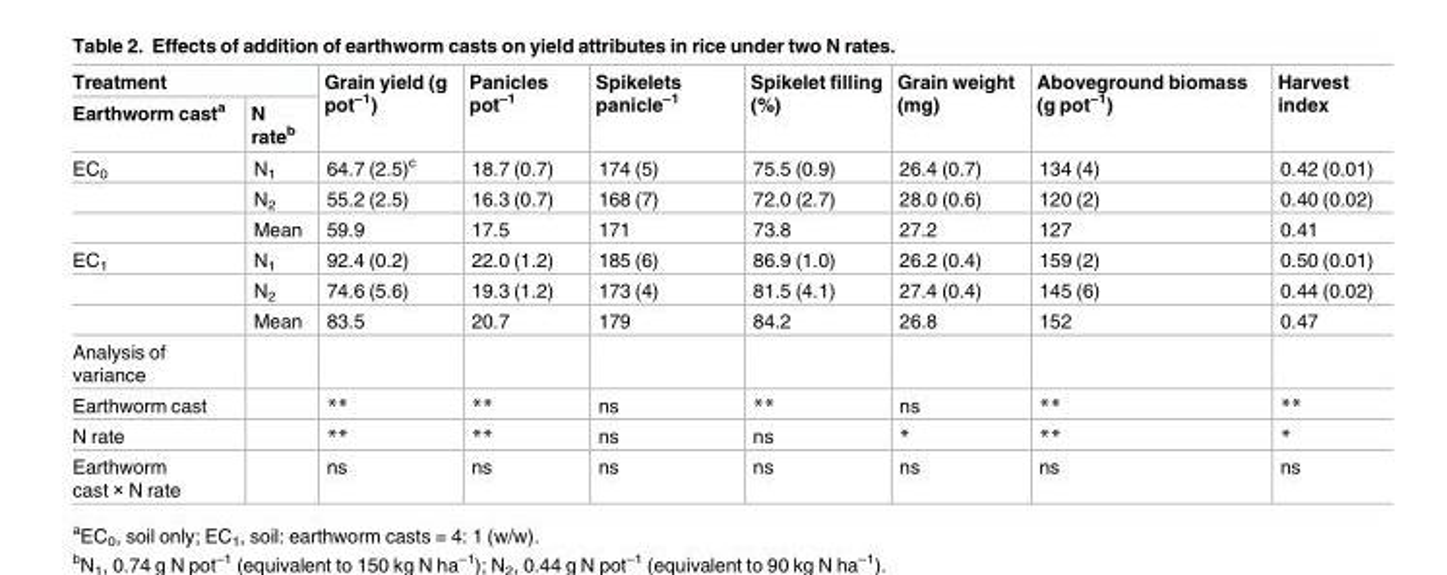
<table><thead><tr><td colspan="2">Treatment</td><td rowspan="2">Grain yield (g pot<sup>–1</sup>)</td><td rowspan="2">Panicles pot<sup>–1</sup></td><td rowspan="2">Spikelets panicle<sup>–1</sup></td><td rowspan="2">Spikelet filling (%)</td><td rowspan="2">Grain weight (mg)</td><td rowspan="2">Aboveground biomass (g pot<sup>–1</sup>)</td><td rowspan="2">Harvest index</td></tr><tr><td>Earthworm cast<sup>a</sup></td><td>N rate<sup>b</sup></td></tr></thead><tbody><tr><td rowspan="3">EC<sub>0</sub></td><td>N<sub>1</sub></td><td>64.7 (2.5)<sup>c</sup></td><td>18.7 (0.7)</td><td>174 (5)</td><td>75.5 (0.9)</td><td>26.4 (0.7)</td><td>134 (4)</td><td>0.42 (0.01)</td></tr><tr><td>N<sub>2</sub></td><td>55.2 (2.5)</td><td>16.3 (0.7)</td><td>168 (7)</td><td>72.0 (2.7)</td><td>28.0 (0.6)</td><td>120 (2)</td><td>0.40 (0.02)</td></tr><tr><td>Mean</td><td>59.9</td><td>17.5</td><td>171</td><td>73.8</td><td>27.2</td><td>127</td><td>0.41</td></tr><tr><td rowspan="3">EC<sub>1</sub></td><td>N<sub>1</sub></td><td>92.4 (0.2)</td><td>22.0 (1.2)</td><td>185 (6)</td><td>86.9 (1.0)</td><td>26.2 (0.4)</td><td>159 (2)</td><td>0.50 (0.01)</td></tr><tr><td>N<sub>2</sub></td><td>74.6 (5.6)</td><td>19.3 (1.2)</td><td>173 (4)</td><td>81.5 (4.1)</td><td>27.4 (0.4)</td><td>145 (6)</td><td>0.44 (0.02)</td></tr><tr><td>Mean</td><td>83.5</td><td>20.7</td><td>179</td><td>84.2</td><td>26.8</td><td>152</td><td>0.47</td></tr><tr><td colspan="9">Analysis of variance</td></tr><tr><td>Earthworm cast</td><td></td><td>**</td><td>**</td><td>ns</td><td>**</td><td>ns</td><td>**</td><td>**</td></tr><tr><td>N rate</td><td></td><td>**</td><td>**</td><td>ns</td><td>ns</td><td>*</td><td>**</td><td>*</td></tr><tr><td>Earthworm cast × N rate</td><td></td><td>ns</td><td>ns</td><td>ns</td><td>ns</td><td>ns</td><td>ns</td><td>ns</td></tr></tbody></table>